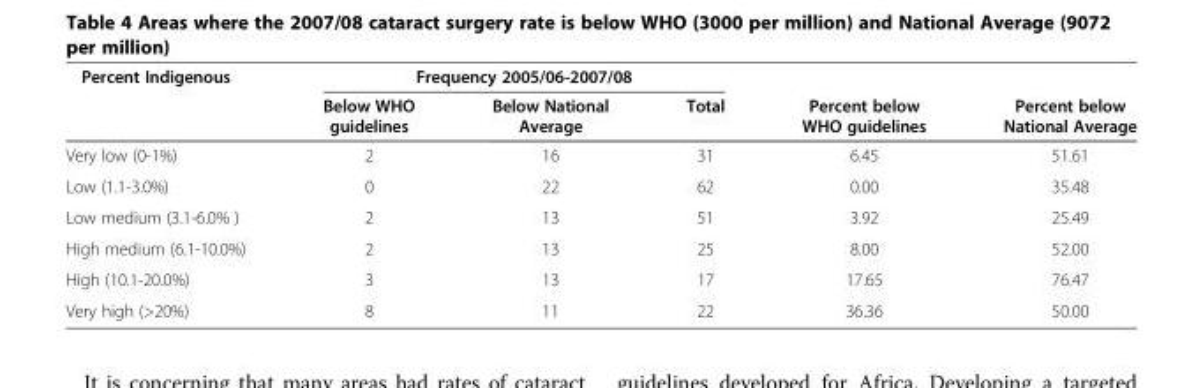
<table><thead><tr><td rowspan="2">Percent Indigenous</td><td colspan="3">Frequency 2005/06-2007/08</td><td rowspan="2">Percent below WHO guidelines</td><td rowspan="2">Percent below National Average</td></tr><tr><td>Below WHO guidelines</td><td>Below National Average</td><td>Total</td></tr></thead><tbody><tr><td>Very low (0-1%)</td><td>2</td><td>16</td><td>31</td><td>6.45</td><td>51.61</td></tr><tr><td>Low (1.1-3.0%)</td><td>0</td><td>22</td><td>62</td><td>0.00</td><td>35.48</td></tr><tr><td>Low medium (3.1-6.0% )</td><td>2</td><td>13</td><td>51</td><td>3.92</td><td>25.49</td></tr><tr><td>High medium (6.1-10.0%)</td><td>2</td><td>13</td><td>25</td><td>8.00</td><td>52.00</td></tr><tr><td>High (10.1-20.0%)</td><td>3</td><td>13</td><td>17</td><td>17.65</td><td>76.47</td></tr><tr><td>Very high (&gt;20%)</td><td>8</td><td>11</td><td>22</td><td>36.36</td><td>50.00</td></tr></tbody></table>